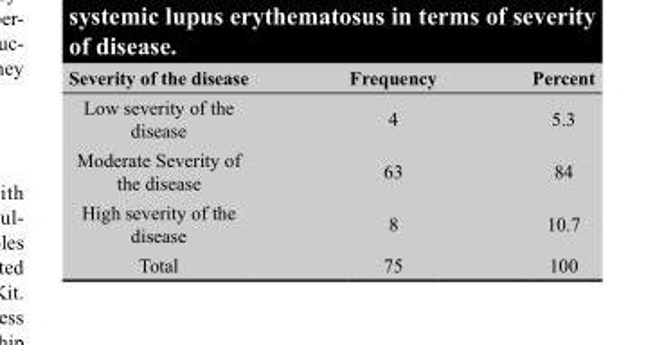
<table><thead><tr><td>Severity of the disease</td><td>Frequency</td><td>Percent</td></tr></thead><tbody><tr><td>Low severity of the disease</td><td>4</td><td>5.3</td></tr><tr><td>Moderate Severity of the disease</td><td>63</td><td>84</td></tr><tr><td>High severity of the disease</td><td>8</td><td>10.7</td></tr><tr><td>Total</td><td>75</td><td>100</td></tr></tbody></table>